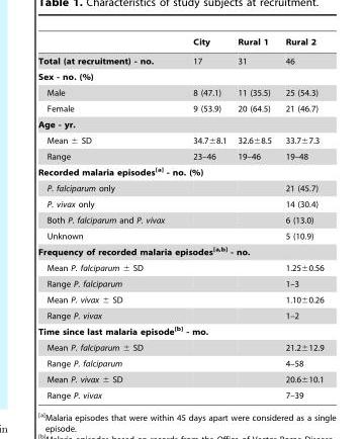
<table><thead><tr><td></td><td>City</td><td>Rural 1</td><td>Rural 2</td></tr></thead><tbody><tr><td>Total (at recruitment) - no.</td><td>17</td><td>31</td><td>46</td></tr><tr><td colspan="4">Sex - no. (%)</td></tr><tr><td>Male</td><td>8 (47.1)</td><td>11 (35.5)</td><td>25 (54.3)</td></tr><tr><td>Female</td><td>9 (53.9)</td><td>20 (64.5)</td><td>21 (46.7)</td></tr><tr><td colspan="4">Age - yr.</td></tr><tr><td>Mean ± SD</td><td>34.7±8.1</td><td>32.6±8.5</td><td>33.7±7.3</td></tr><tr><td>Range</td><td>23–46</td><td>19–46</td><td>19–48</td></tr><tr><td colspan="4">Recorded malaria episodes[a] - no. (%)</td></tr><tr><td>P. falciparum only</td><td></td><td></td><td>21 (45.7)</td></tr><tr><td>P. vivax only</td><td></td><td></td><td>14 (30.4)</td></tr><tr><td>Both P. falciparum and P. vivax</td><td></td><td></td><td>6 (13.0)</td></tr><tr><td>Unknown</td><td></td><td></td><td>5 (10.9)</td></tr><tr><td colspan="4">Frequency of recorded malaria episodes[a<sup>,</sup>b] - no.</td></tr><tr><td>Mean P. falciparum ± SD</td><td></td><td></td><td>1.25±0.56</td></tr><tr><td>Range P. falciparum</td><td></td><td></td><td>1–3</td></tr><tr><td>Mean P. vivax ± SD</td><td></td><td></td><td>1.10±0.26</td></tr><tr><td>Range P. vivax</td><td></td><td></td><td>1–2</td></tr><tr><td colspan="4">Time since last malaria episode[b] - mo.</td></tr><tr><td>Mean P. falciparum ± SD</td><td></td><td></td><td>21.2±12.9</td></tr><tr><td>Range P. falciparum</td><td></td><td></td><td>4–58</td></tr><tr><td>Mean P. vivax ± SD</td><td></td><td></td><td>20.6±10.1</td></tr><tr><td>Range P. vivax</td><td></td><td></td><td>7–39</td></tr></tbody></table>